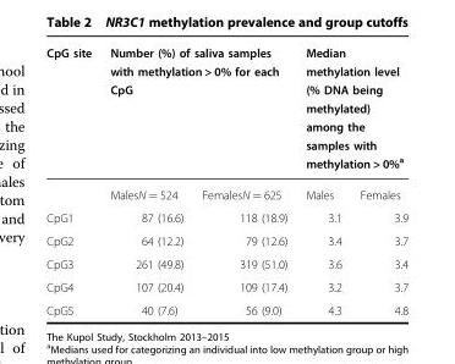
<table><thead><tr><td rowspan="2">CpG site</td><td colspan="2">Number (%) of saliva samples with methylation &gt; 0% for each CpG</td><td colspan="2">Median methylation level (% DNA being methylated) among the samples with methylation &gt; 0%<sup>a</sup></td></tr><tr><td>MalesN = 524</td><td>FemalesN = 625</td><td>Males</td><td>Females</td></tr></thead><tbody><tr><td>CpG1</td><td>87 (16.6)</td><td>118 (18.9)</td><td>3.1</td><td>3.9</td></tr><tr><td>CpG2</td><td>64 (12.2)</td><td>79 (12.6)</td><td>3.4</td><td>3.7</td></tr><tr><td>CpG3</td><td>261 (49.8)</td><td>319 (51.0)</td><td>3.6</td><td>3.4</td></tr><tr><td>CpG4</td><td>107 (20.4)</td><td>109 (17.4)</td><td>3.2</td><td>3.7</td></tr><tr><td>CpG5</td><td>40 (7.6)</td><td>56 (9.0)</td><td>4.3</td><td>4.8</td></tr></tbody></table>